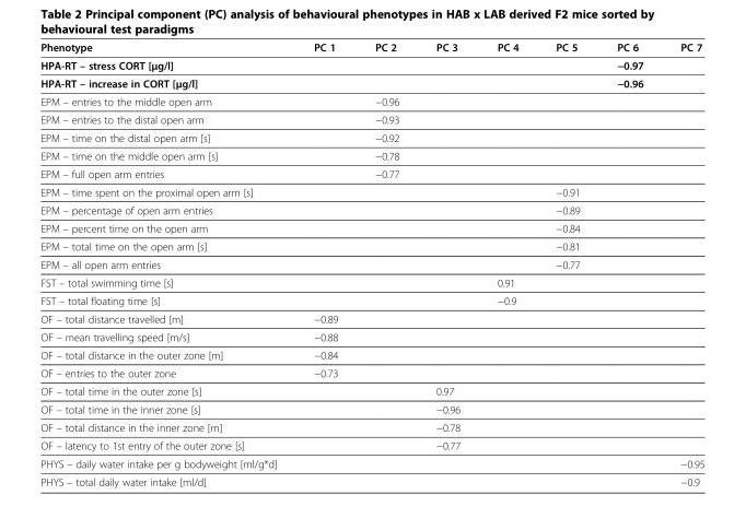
<table><thead><tr><td>Phenotype</td><td>PC 1</td><td>PC 2</td><td>PC 3</td><td>PC 4</td><td>PC 5</td><td>PC 6</td><td>PC 7</td></tr></thead><tbody><tr><td>HPA-RT – stress CORT [μg/l]</td><td></td><td></td><td></td><td></td><td></td><td>−0.97</td><td></td></tr><tr><td>HPA-RT – increase in CORT [μg/l]</td><td></td><td></td><td></td><td></td><td></td><td>−0.96</td><td></td></tr><tr><td>EPM – entries to the middle open arm</td><td></td><td>−0.96</td><td></td><td></td><td></td><td></td><td></td></tr><tr><td>EPM – entries to the distal open arm</td><td></td><td>−0.93</td><td></td><td></td><td></td><td></td><td></td></tr><tr><td>EPM – time on the distal open arm [s]</td><td></td><td>−0.92</td><td></td><td></td><td></td><td></td><td></td></tr><tr><td>EPM – time on the middle open arm [s]</td><td></td><td>−0.78</td><td></td><td></td><td></td><td></td><td></td></tr><tr><td>EPM – full open arm entries</td><td></td><td>−0.77</td><td></td><td></td><td></td><td></td><td></td></tr><tr><td>EPM – time spent on the proximal open arm [s]</td><td></td><td></td><td></td><td></td><td>−0.91</td><td></td><td></td></tr><tr><td>EPM – percentage of open arm entries</td><td></td><td></td><td></td><td></td><td>−0.89</td><td></td><td></td></tr><tr><td>EPM – percent time on the open arm</td><td></td><td></td><td></td><td></td><td>−0.84</td><td></td><td></td></tr><tr><td>EPM – total time on the open arm [s]</td><td></td><td></td><td></td><td></td><td>−0.81</td><td></td><td></td></tr><tr><td>EPM – all open arm entries</td><td></td><td></td><td></td><td></td><td>−0.77</td><td></td><td></td></tr><tr><td>FST – total swimming time [s]</td><td></td><td></td><td></td><td>0.91</td><td></td><td></td><td></td></tr><tr><td>FST – total floating time [s]</td><td></td><td></td><td></td><td>−0.9</td><td></td><td></td><td></td></tr><tr><td>OF – total distance travelled [m]</td><td>−0.89</td><td></td><td></td><td></td><td></td><td></td><td></td></tr><tr><td>OF – mean travelling speed [m/s]</td><td>−0.88</td><td></td><td></td><td></td><td></td><td></td><td></td></tr><tr><td>OF – total distance in the outer zone [m]</td><td>−0.84</td><td></td><td></td><td></td><td></td><td></td><td></td></tr><tr><td>OF – entries to the outer zone</td><td>−0.73</td><td></td><td></td><td></td><td></td><td></td><td></td></tr><tr><td>OF – total time in the outer zone [s]</td><td></td><td></td><td>0.97</td><td></td><td></td><td></td><td></td></tr><tr><td>OF – total time in the inner zone [s]</td><td></td><td></td><td>−0.96</td><td></td><td></td><td></td><td></td></tr><tr><td>OF – total distance in the inner zone [m]</td><td></td><td></td><td>−0.78</td><td></td><td></td><td></td><td></td></tr><tr><td>OF – latency to 1st entry of the outer zone [s]</td><td></td><td></td><td>−0.77</td><td></td><td></td><td></td><td></td></tr><tr><td>PHYS – daily water intake per g bodyweight [ml/g*d]</td><td></td><td></td><td></td><td></td><td></td><td></td><td>−0.95</td></tr><tr><td>PHYS – total daily water intake [ml/d]</td><td></td><td></td><td></td><td></td><td></td><td></td><td>−0.9</td></tr></tbody></table>